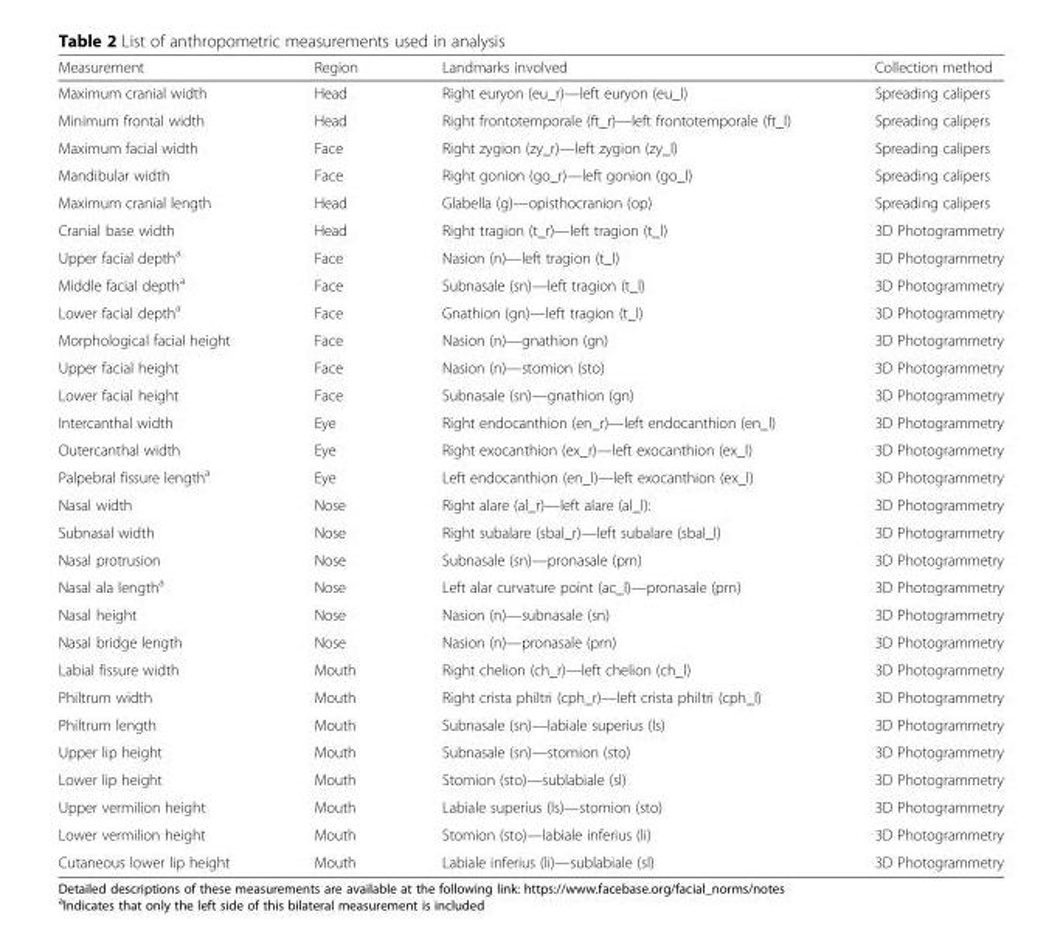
<table><thead><tr><td>Measurement</td><td>Region</td><td>Landmarks involved</td><td>Collection method</td></tr></thead><tbody><tr><td>Maximum cranial width</td><td>Head</td><td>Right euryon (eu_r)—left euryon (eu_l)</td><td>Spreading calipers</td></tr><tr><td>Minimum frontal width</td><td>Head</td><td>Right frontotemporale (ft_r)—left frontotemporale (ft_l)</td><td>Spreading calipers</td></tr><tr><td>Maximum facial width</td><td>Face</td><td>Right zygion (zy_r)—left zygion (zy_l)</td><td>Spreading calipers</td></tr><tr><td>Mandibular width</td><td>Face</td><td>Right gonion (go_r)—left gonion (go_l)</td><td>Spreading calipers</td></tr><tr><td>Maximum cranial length</td><td>Head</td><td>Glabella (g)—opisthocranion (op)</td><td>Spreading calipers</td></tr><tr><td>Cranial base width</td><td>Head</td><td>Right tragion (t_r)—left tragion (t_l)</td><td>3D Photogrammetry</td></tr><tr><td>Upper facial depth<sup>a</sup></td><td>Face</td><td>Nasion (n)—left tragion (t_l)</td><td>3D Photogrammetry</td></tr><tr><td>Middle facial depth<sup>a</sup></td><td>Face</td><td>Subnasale (sn)—left tragion (t_l)</td><td>3D Photogrammetry</td></tr><tr><td>Lower facial depth<sup>a</sup></td><td>Face</td><td>Gnathion (gn)—left tragion (t_l)</td><td>3D Photogrammetry</td></tr><tr><td>Morphological facial height</td><td>Face</td><td>Nasion (n)—gnathion (gn)</td><td>3D Photogrammetry</td></tr><tr><td>Upper facial height</td><td>Face</td><td>Nasion (n)—stomion (sto)</td><td>3D Photogrammetry</td></tr><tr><td>Lower facial height</td><td>Face</td><td>Subnasale (sn)—gnathion (gn)</td><td>3D Photogrammetry</td></tr><tr><td>Intercanthal width</td><td>Eye</td><td>Right endocanthion (en_r)—left endocanthion (en_l)</td><td>3D Photogrammetry</td></tr><tr><td>Outercanthal width</td><td>Eye</td><td>Right exocanthion (ex_r)—left exocanthion (ex_l)</td><td>3D Photogrammetry</td></tr><tr><td>Palpebral fissure length<sup>a</sup></td><td>Eye</td><td>Left endocanthion (en_l)—left exocanthion (ex_l)</td><td>3D Photogrammetry</td></tr><tr><td>Nasal width</td><td>Nose</td><td>Right alare (al_r)—left alare (al_l):</td><td>3D Photogrammetry</td></tr><tr><td>Subnasal width</td><td>Nose</td><td>Right subalare (sbal_r)—left subalare (sbal_l)</td><td>3D Photogrammetry</td></tr><tr><td>Nasal protrusion</td><td>Nose</td><td>Subnasale (sn)—pronasale (prn)</td><td>3D Photogrammetry</td></tr><tr><td>Nasal ala length<sup>a</sup></td><td>Nose</td><td>Left alar curvature point (ac_l)—pronasale (prn)</td><td>3D Photogrammetry</td></tr><tr><td>Nasal height</td><td>Nose</td><td>Nasion (n)—subnasale (sn)</td><td>3D Photogrammetry</td></tr><tr><td>Nasal bridge length</td><td>Nose</td><td>Nasion (n)—pronasale (prn)</td><td>3D Photogrammetry</td></tr><tr><td>Labial fissure width</td><td>Mouth</td><td>Right chelion (ch_r)—left chelion (ch_l)</td><td>3D Photogrammetry</td></tr><tr><td>Philtrum width</td><td>Mouth</td><td>Right crista philtri (cph_r)—left crista philtri (cph_l)</td><td>3D Photogrammetry</td></tr><tr><td>Philtrum length</td><td>Mouth</td><td>Subnasale (sn)—labiale superius (ls)</td><td>3D Photogrammetry</td></tr><tr><td>Upper lip height</td><td>Mouth</td><td>Subnasale (sn)—stomion (sto)</td><td>3D Photogrammetry</td></tr><tr><td>Lower lip height</td><td>Mouth</td><td>Stomion (sto)—sublabiale (sl)</td><td>3D Photogrammetry</td></tr><tr><td>Upper vermilion height</td><td>Mouth</td><td>Labiale superius (ls)—stomion (sto)</td><td>3D Photogrammetry</td></tr><tr><td>Lower vermilion height</td><td>Mouth</td><td>Stomion (sto)—labiale inferius (li)</td><td>3D Photogrammetry</td></tr><tr><td>Cutaneous lower lip height</td><td>Mouth</td><td>Labiale inferius (li)—sublabiale (sl)</td><td>3D Photogrammetry</td></tr></tbody></table>